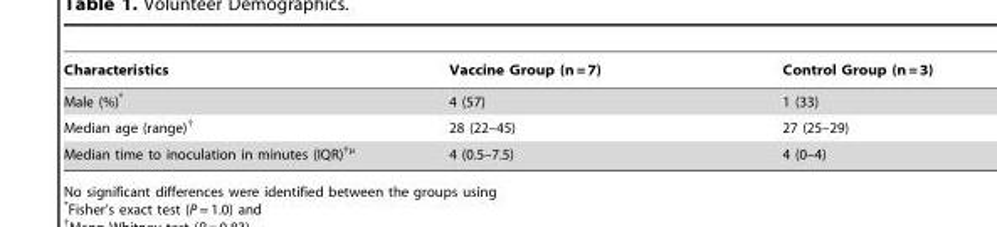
<table><thead><tr><td>Characteristics</td><td>Vaccine Group (n = 7)</td><td>Control Group (n = 3)</td></tr></thead><tbody><tr><td>Male (%)*</td><td>4 (57)</td><td>1 (33)</td></tr><tr><td>Median age (range)†</td><td>28 (22–45)</td><td>27 (25–29)</td></tr><tr><td>Median time to inoculation in minutes (IQR)†μ</td><td>4 (0.5–7.5)</td><td>4 (0–4)</td></tr></tbody></table>